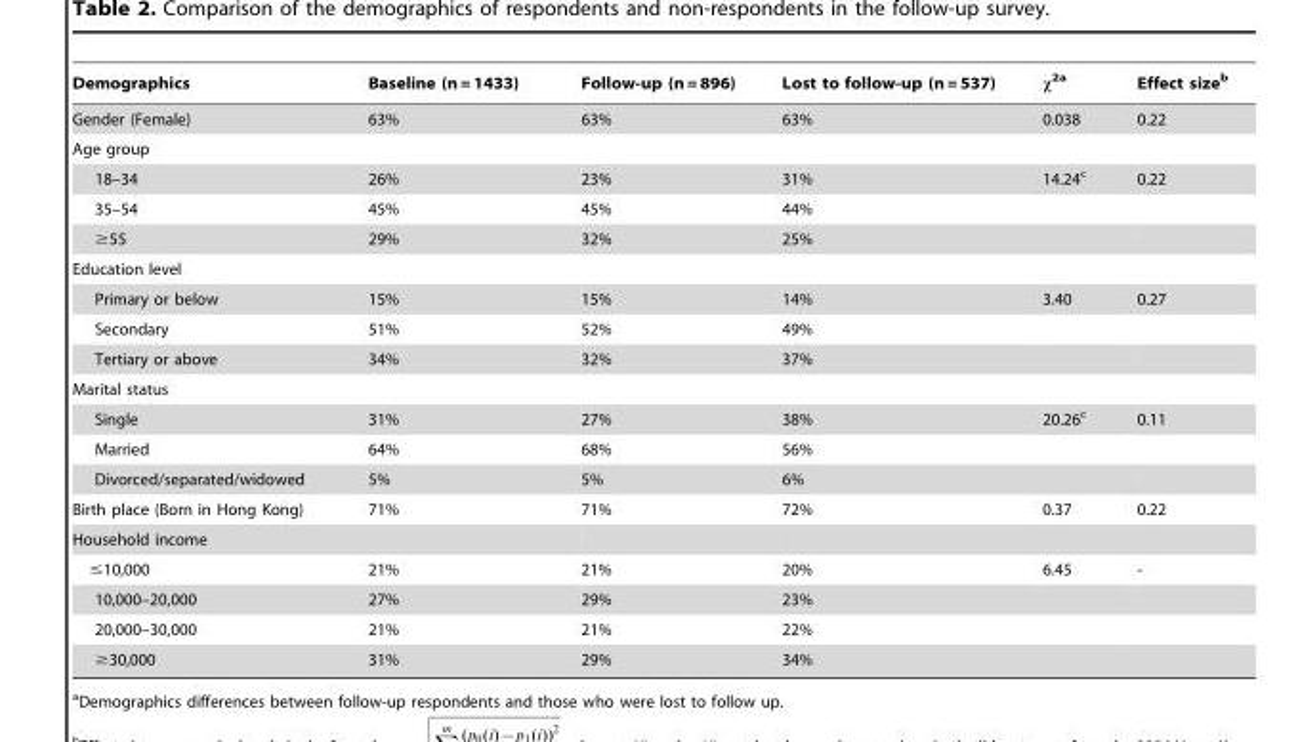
<table><thead><tr><td>Demographics</td><td>Baseline (n = 1433)</td><td>Follow-up (n = 896)</td><td>Lost to follow-up (n = 537)</td><td>χ<sup>2</sup>a</td><td>Effect size<sup>b</sup></td></tr></thead><tbody><tr><td>Gender (Female)</td><td>63%</td><td>63%</td><td>63%</td><td>0.038</td><td>0.22</td></tr><tr><td colspan="6">Age group</td></tr><tr><td>18–34</td><td>26%</td><td>23%</td><td>31%</td><td>14.24<sup>c</sup></td><td>0.22</td></tr><tr><td>35–54</td><td>45%</td><td>45%</td><td>44%</td><td></td><td></td></tr><tr><td>≥55</td><td>29%</td><td>32%</td><td>25%</td><td></td><td></td></tr><tr><td colspan="6">Education level</td></tr><tr><td>Primary or below</td><td>15%</td><td>15%</td><td>14%</td><td>3.40</td><td>0.27</td></tr><tr><td>Secondary</td><td>51%</td><td>52%</td><td>49%</td><td></td><td></td></tr><tr><td>Tertiary or above</td><td>34%</td><td>32%</td><td>37%</td><td></td><td></td></tr><tr><td colspan="6">Marital status</td></tr><tr><td>Single</td><td>31%</td><td>27%</td><td>38%</td><td>20.26<sup>c</sup></td><td>0.11</td></tr><tr><td>Married</td><td>64%</td><td>68%</td><td>56%</td><td></td><td></td></tr><tr><td>Divorced/separated/widowed</td><td>5%</td><td>5%</td><td>6%</td><td></td><td></td></tr><tr><td>Birth place (Born in Hong Kong)</td><td>71%</td><td>71%</td><td>72%</td><td>0.37</td><td>0.22</td></tr><tr><td colspan="6">Household income</td></tr><tr><td>≤10,000</td><td>21%</td><td>21%</td><td>20%</td><td>6.45</td><td>-</td></tr><tr><td>10,000–20,000</td><td>27%</td><td>29%</td><td>23%</td><td></td><td></td></tr><tr><td>20,000–30,000</td><td>21%</td><td>21%</td><td>22%</td><td></td><td></td></tr><tr><td>≥30,000</td><td>31%</td><td>29%</td><td>34%</td><td></td><td></td></tr></tbody></table>